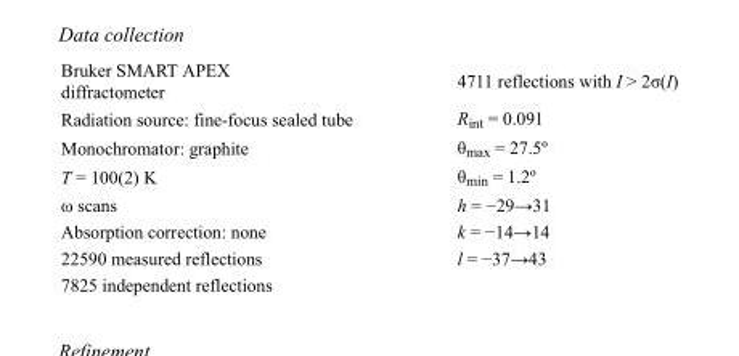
<table><tbody><tr><td>Bruker SMART APEX diffractometer</td><td>4711 reflections with I &gt; 2σ(I)</td></tr><tr><td>Radiation source: fine-focus sealed tube</td><td>R<sub>int</sub> = 0.091</td></tr><tr><td>Monochromator: graphite</td><td>θ<sub>max</sub> = 27.5º</td></tr><tr><td>T = 100(2) K</td><td>θ<sub>min</sub> = 1.2º</td></tr><tr><td>ω scans</td><td>h = −29→31</td></tr><tr><td>Absorption correction: none</td><td>k = −14→14</td></tr><tr><td>22590 measured reflections</td><td>l = −37→43</td></tr><tr><td>7825 independent reflections</td><td></td></tr></tbody></table>